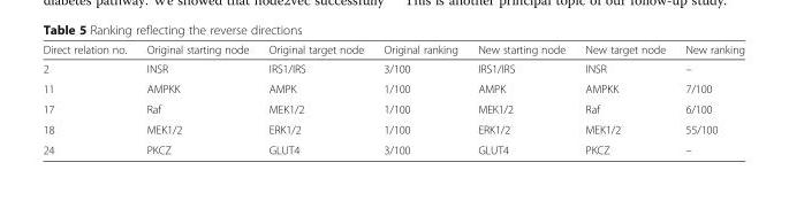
<table><thead><tr><td>Direct relation no.</td><td>Original starting node</td><td>Original target node</td><td>Original ranking</td><td>New starting node</td><td>New target node</td><td>New ranking</td></tr></thead><tbody><tr><td>2</td><td>INSR</td><td>IRS1/IRS</td><td>3/100</td><td>IRS1/IRS</td><td>INSR</td><td>–</td></tr><tr><td>11</td><td>AMPKK</td><td>AMPK</td><td>1/100</td><td>AMPK</td><td>AMPKK</td><td>7/100</td></tr><tr><td>17</td><td>Raf</td><td>MEK1/2</td><td>1/100</td><td>MEK1/2</td><td>Raf</td><td>6/100</td></tr><tr><td>18</td><td>MEK1/2</td><td>ERK1/2</td><td>1/100</td><td>ERK1/2</td><td>MEK1/2</td><td>55/100</td></tr><tr><td>24</td><td>PKCZ</td><td>GLUT4</td><td>3/100</td><td>GLUT4</td><td>PKCZ</td><td>–</td></tr></tbody></table>